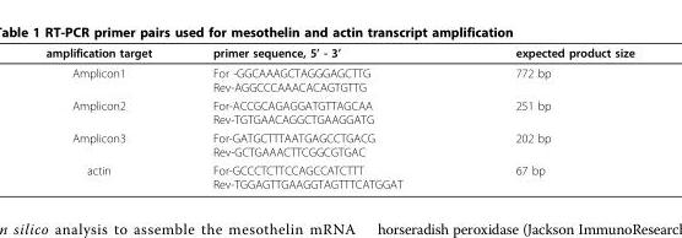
<table><thead><tr><td>amplification target</td><td>primer sequence, 5’ - 3’</td><td>expected product size</td></tr></thead><tbody><tr><td>Amplicon1</td><td>For -GGCAAAGCTAGGGAGCTTG Rev-AGGCCCAAACACAGTGTTG</td><td>772 bp</td></tr><tr><td>Amplicon2</td><td>For-ACCGCAGAGGATGTTAGCAA Rev-TGTGAACAGGCTGAAGGATG</td><td>251 bp</td></tr><tr><td>Amplicon3</td><td>For-GATGCTTTAATGAGCCTGACG Rev-GCTGAAACTTCGGCGTGAC</td><td>202 bp</td></tr><tr><td>actin</td><td>For-GCCCTCTTCCAGCCATCTTT Rev-TGGAGTTGAAGGTAGTTTCATGGAT</td><td>67 bp</td></tr></tbody></table>